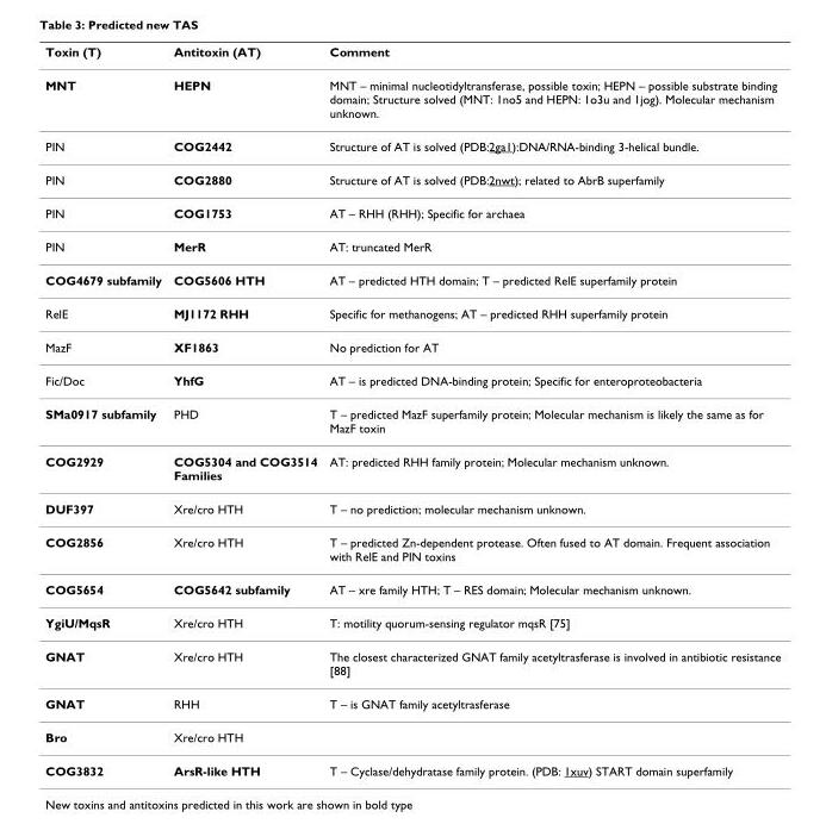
<table><thead><tr><td>Toxin (T)</td><td>Antitoxin (AT)</td><td>Comment</td></tr></thead><tbody><tr><td>MNT</td><td>HEPN</td><td>MNT – minimal nucleotidyltransferase, possible toxin; HEPN – possible substrate binding domain; Structure solved (MNT: 1no5 and HEPN: 1o3u and 1jog). Molecular mechanism unknown.</td></tr><tr><td>PIN</td><td>COG2442</td><td>Structure of AT is solved (PDB:2ga1):DNA/RNA-binding 3-helical bundle.</td></tr><tr><td>PIN</td><td>COG2880</td><td>Structure of AT is solved (PDB:2nwt); related to AbrB superfamily</td></tr><tr><td>PIN</td><td>COG1753</td><td>AT – RHH (RHH); Specific for archaea</td></tr><tr><td>PIN</td><td>MerR</td><td>AT: truncated MerR</td></tr><tr><td>COG4679 subfamily</td><td>COG5606 HTH</td><td>AT – predicted HTH domain; T – predicted RelE superfamily protein</td></tr><tr><td>RelE</td><td>MJ1172 RHH</td><td>Specific for methanogens; AT – predicted RHH superfamily protein</td></tr><tr><td>MazF</td><td>XF1863</td><td>No prediction for AT</td></tr><tr><td>Fic/Doc</td><td>YhfG</td><td>AT – is predicted DNA-binding protein; Specific for enteroproteobacteria</td></tr><tr><td>SMa0917 subfamily</td><td>PHD</td><td>T – predicted MazF superfamily protein; Molecular mechanism is likely the same as for MazF toxin</td></tr><tr><td>COG2929</td><td>COG5304 and COG3514 Families</td><td>AT: predicted RHH family protein; Molecular mechanism unknown.</td></tr><tr><td>DUF397</td><td>Xre/cro HTH</td><td>T – no prediction; molecular mechanism unknown.</td></tr><tr><td>COG2856</td><td>Xre/cro HTH</td><td>T – predicted Zn-dependent protease. Often fused to AT domain. Frequent association with RelE and PIN toxins</td></tr><tr><td>COG5654</td><td>COG5642 subfamily</td><td>AT – xre family HTH; T – RES domain; Molecular mechanism unknown.</td></tr><tr><td>YgiU/MqsR</td><td>Xre/cro HTH</td><td>T: motility quorum-sensing regulator mqsR [75]</td></tr><tr><td>GNAT</td><td>Xre/cro HTH</td><td>The closest characterized GNAT family acetyltrasferase is involved in antibiotic resistance [88]</td></tr><tr><td>GNAT</td><td>RHH</td><td>T – is GNAT family acetyltrasferase</td></tr><tr><td>Bro</td><td>Xre/cro HTH</td><td></td></tr><tr><td>COG3832</td><td>ArsR-like HTH</td><td>T – Cyclase/dehydratase family protein. (PDB: 1xuv) START domain superfamily</td></tr></tbody></table>